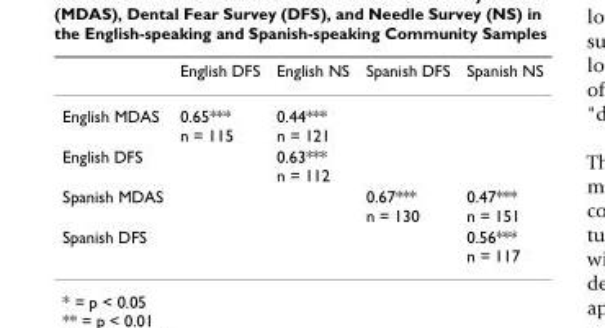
<table><thead><tr><td></td><td>English DFS</td><td>English NS</td><td>Spanish DFS</td><td>Spanish NS</td></tr></thead><tbody><tr><td>English MDAS</td><td>0.65*** n = 115</td><td>0.44*** n = 121</td><td></td><td></td></tr><tr><td>English DFS</td><td></td><td>0.63*** n = 112</td><td></td><td></td></tr><tr><td>Spanish MDAS</td><td></td><td></td><td>0.67*** n = 130</td><td>0.47*** n = 151</td></tr><tr><td>Spanish DFS</td><td></td><td></td><td></td><td>0.56*** n = 117</td></tr></tbody></table>